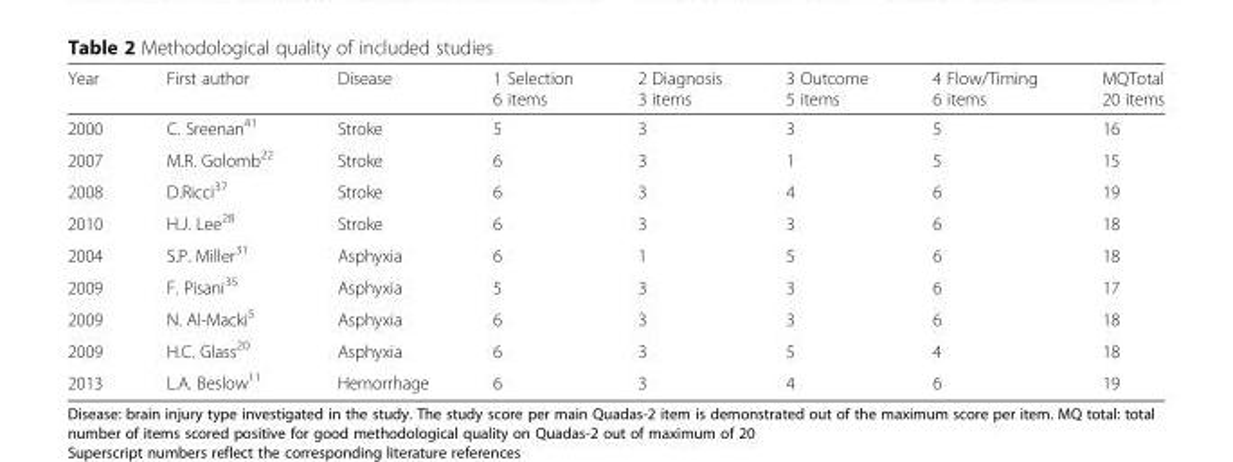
<table><thead><tr><td>Year</td><td>First author</td><td>Disease</td><td>1 Selection 6 items</td><td>2 Diagnosis 3 items</td><td>3 Outcome 5 items</td><td>4 Flow/Timing 6 items</td><td>MQTotal 20 items</td></tr></thead><tbody><tr><td>2000</td><td>C. Sreenan<sup>41</sup></td><td>Stroke</td><td>5</td><td>3</td><td>3</td><td>5</td><td>16</td></tr><tr><td>2007</td><td>M.R. Golomb<sup>22</sup></td><td>Stroke</td><td>6</td><td>3</td><td>1</td><td>5</td><td>15</td></tr><tr><td>2008</td><td>D.Ricci<sup>37</sup></td><td>Stroke</td><td>6</td><td>3</td><td>4</td><td>6</td><td>19</td></tr><tr><td>2010</td><td>H.J. Lee<sup>28</sup></td><td>Stroke</td><td>6</td><td>3</td><td>3</td><td>6</td><td>18</td></tr><tr><td>2004</td><td>S.P. Miller<sup>31</sup></td><td>Asphyxia</td><td>6</td><td>1</td><td>5</td><td>6</td><td>18</td></tr><tr><td>2009</td><td>F. Pisani<sup>35</sup></td><td>Asphyxia</td><td>5</td><td>3</td><td>3</td><td>6</td><td>17</td></tr><tr><td>2009</td><td>N. Al-Macki<sup>5</sup></td><td>Asphyxia</td><td>6</td><td>3</td><td>3</td><td>6</td><td>18</td></tr><tr><td>2009</td><td>H.C. Glass<sup>20</sup></td><td>Asphyxia</td><td>6</td><td>3</td><td>5</td><td>4</td><td>18</td></tr><tr><td>2013</td><td>L.A. Beslow<sup>11</sup></td><td>Hemorrhage</td><td>6</td><td>3</td><td>4</td><td>6</td><td>19</td></tr></tbody></table>